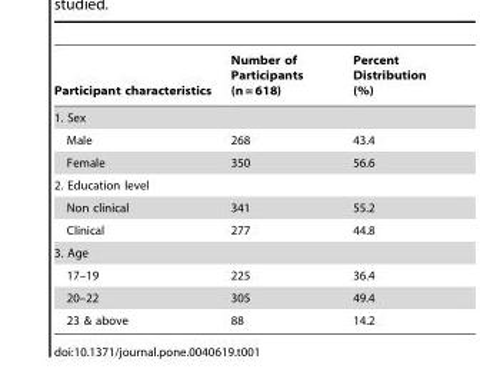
<table><thead><tr><td>Participant characteristics</td><td>Number of Participants (n = 618)</td><td>Percent Distribution (%)</td></tr></thead><tbody><tr><td colspan="3">1. Sex</td></tr><tr><td>Male</td><td>268</td><td>43.4</td></tr><tr><td>Female</td><td>350</td><td>56.6</td></tr><tr><td colspan="3">2. Education level</td></tr><tr><td>Non clinical</td><td>341</td><td>55.2</td></tr><tr><td>Clinical</td><td>277</td><td>44.8</td></tr><tr><td colspan="3">3. Age</td></tr><tr><td>17–19</td><td>225</td><td>36.4</td></tr><tr><td>20–22</td><td>305</td><td>49.4</td></tr><tr><td>23 &amp; above</td><td>88</td><td>14.2</td></tr></tbody></table>